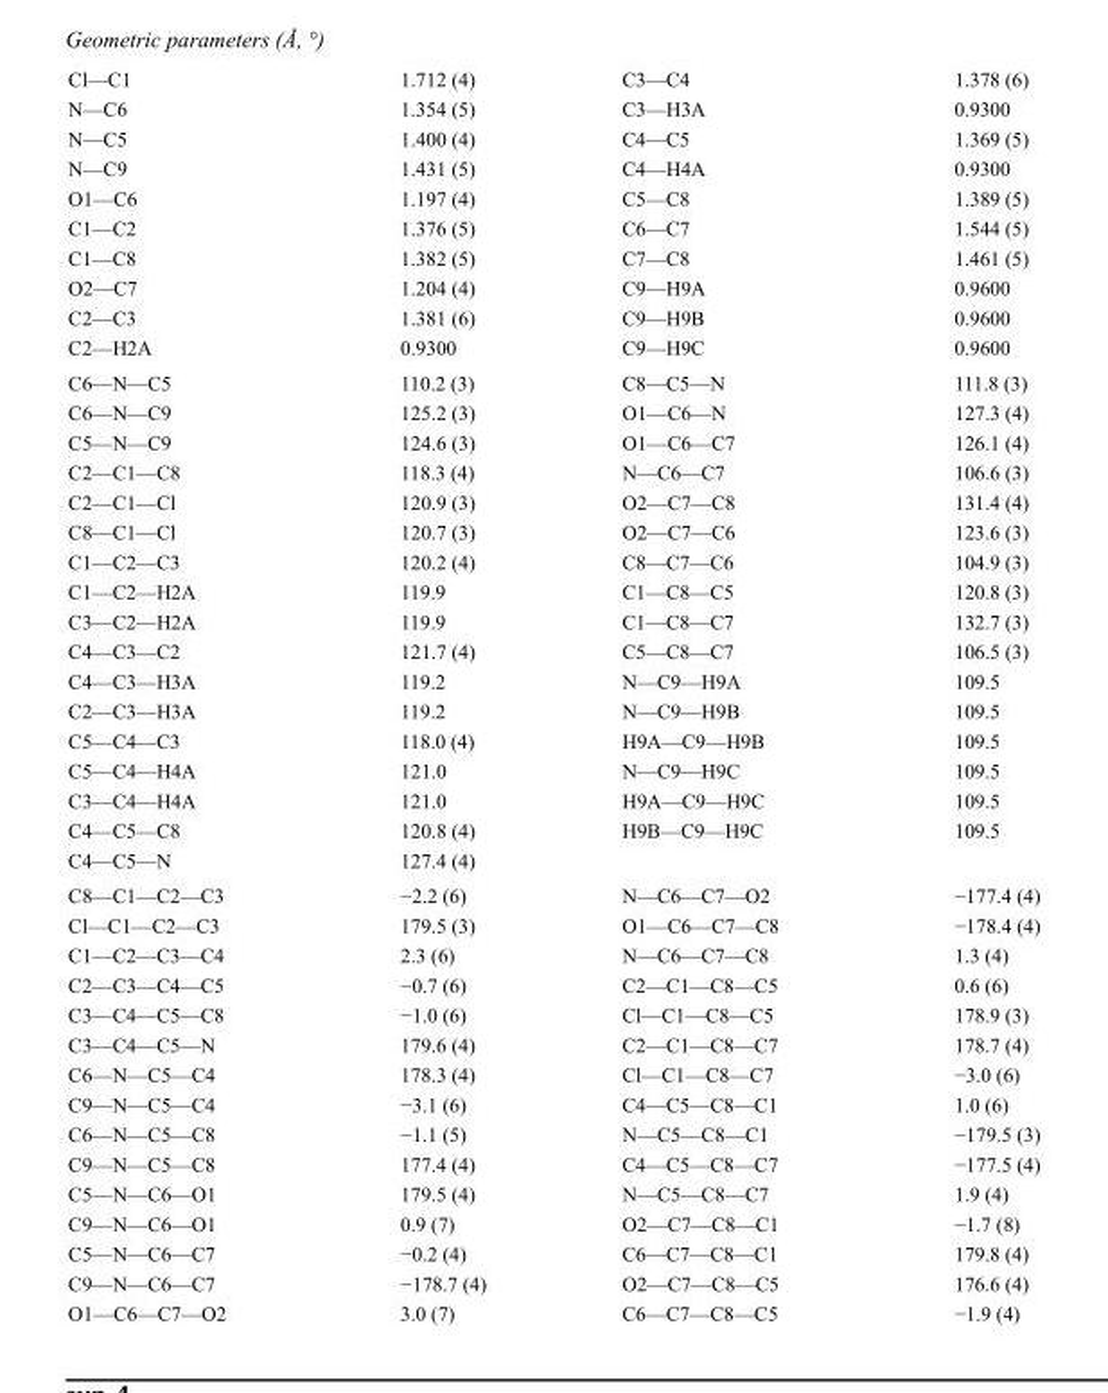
<table><tbody><tr><td>Cl—C1</td><td>1.712 (4)</td><td>C3—C4</td><td>1.378 (6)</td></tr><tr><td>N—C6</td><td>1.354 (5)</td><td>C3—H3A</td><td>0.9300</td></tr><tr><td>N—C5</td><td>1.400 (4)</td><td>C4—C5</td><td>1.369 (5)</td></tr><tr><td>N—C9</td><td>1.431 (5)</td><td>C4—H4A</td><td>0.9300</td></tr><tr><td>O1—C6</td><td>1.197 (4)</td><td>C5—C8</td><td>1.389 (5)</td></tr><tr><td>C1—C2</td><td>1.376 (5)</td><td>C6—C7</td><td>1.544 (5)</td></tr><tr><td>C1—C8</td><td>1.382 (5)</td><td>C7—C8</td><td>1.461 (5)</td></tr><tr><td>O2—C7</td><td>1.204 (4)</td><td>C9—H9A</td><td>0.9600</td></tr><tr><td>C2—C3</td><td>1.381 (6)</td><td>C9—H9B</td><td>0.9600</td></tr><tr><td>C2—H2A</td><td>0.9300</td><td>C9—H9C</td><td>0.9600</td></tr><tr><td>C6—N—C5</td><td>110.2 (3)</td><td>C8—C5—N</td><td>111.8 (3)</td></tr><tr><td>C6—N—C9</td><td>125.2 (3)</td><td>O1—C6—N</td><td>127.3 (4)</td></tr><tr><td>C5—N—C9</td><td>124.6 (3)</td><td>O1—C6—C7</td><td>126.1 (4)</td></tr><tr><td>C2—C1—C8</td><td>118.3 (4)</td><td>N—C6—C7</td><td>106.6 (3)</td></tr><tr><td>C2—C1—Cl</td><td>120.9 (3)</td><td>O2—C7—C8</td><td>131.4 (4)</td></tr><tr><td>C8—C1—Cl</td><td>120.7 (3)</td><td>O2—C7—C6</td><td>123.6 (3)</td></tr><tr><td>C1—C2—C3</td><td>120.2 (4)</td><td>C8—C7—C6</td><td>104.9 (3)</td></tr><tr><td>C1—C2—H2A</td><td>119.9</td><td>C1—C8—C5</td><td>120.8 (3)</td></tr><tr><td>C3—C2—H2A</td><td>119.9</td><td>C1—C8—C7</td><td>132.7 (3)</td></tr><tr><td>C4—C3—C2</td><td>121.7 (4)</td><td>C5—C8—C7</td><td>106.5 (3)</td></tr><tr><td>C4—C3—H3A</td><td>119.2</td><td>N—C9—H9A</td><td>109.5</td></tr><tr><td>C2—C3—H3A</td><td>119.2</td><td>N—C9—H9B</td><td>109.5</td></tr><tr><td>C5—C4—C3</td><td>118.0 (4)</td><td>H9A—C9—H9B</td><td>109.5</td></tr><tr><td>C5—C4—H4A</td><td>121.0</td><td>N—C9—H9C</td><td>109.5</td></tr><tr><td>C3—C4—H4A</td><td>121.0</td><td>H9A—C9—H9C</td><td>109.5</td></tr><tr><td>C4—C5—C8</td><td>120.8 (4)</td><td>H9B—C9—H9C</td><td>109.5</td></tr><tr><td>C4—C5—N</td><td>127.4 (4)</td><td></td><td></td></tr><tr><td>C8—C1—C2—C3</td><td>−2.2 (6)</td><td>N—C6—C7—O2</td><td>−177.4 (4)</td></tr><tr><td>Cl—C1—C2—C3</td><td>179.5 (3)</td><td>O1—C6—C7—C8</td><td>−178.4 (4)</td></tr><tr><td>C1—C2—C3—C4</td><td>2.3 (6)</td><td>N—C6—C7—C8</td><td>1.3 (4)</td></tr><tr><td>C2—C3—C4—C5</td><td>−0.7 (6)</td><td>C2—C1—C8—C5</td><td>0.6 (6)</td></tr><tr><td>C3—C4—C5—C8</td><td>−1.0 (6)</td><td>Cl—C1—C8—C5</td><td>178.9 (3)</td></tr><tr><td>C3—C4—C5—N</td><td>179.6 (4)</td><td>C2—C1—C8—C7</td><td>178.7 (4)</td></tr><tr><td>C6—N—C5—C4</td><td>178.3 (4)</td><td>Cl—C1—C8—C7</td><td>−3.0 (6)</td></tr><tr><td>C9—N—C5—C4</td><td>−3.1 (6)</td><td>C4—C5—C8—C1</td><td>1.0 (6)</td></tr><tr><td>C6—N—C5—C8</td><td>−1.1 (5)</td><td>N—C5—C8—C1</td><td>−179.5 (3)</td></tr><tr><td>C9—N—C5—C8</td><td>177.4 (4)</td><td>C4—C5—C8—C7</td><td>−177.5 (4)</td></tr><tr><td>C5—N—C6—O1</td><td>179.5 (4)</td><td>N—C5—C8—C7</td><td>1.9 (4)</td></tr><tr><td>C9—N—C6—O1</td><td>0.9 (7)</td><td>O2—C7—C8—C1</td><td>−1.7 (8)</td></tr><tr><td>C5—N—C6—C7</td><td>−0.2 (4)</td><td>C6—C7—C8—C1</td><td>179.8 (4)</td></tr><tr><td>C9—N—C6—C7</td><td>−178.7 (4)</td><td>O2—C7—C8—C5</td><td>176.6 (4)</td></tr><tr><td>O1—C6—C7—O2</td><td>3.0 (7)</td><td>C6—C7—C8—C5</td><td>−1.9 (4)</td></tr></tbody></table>